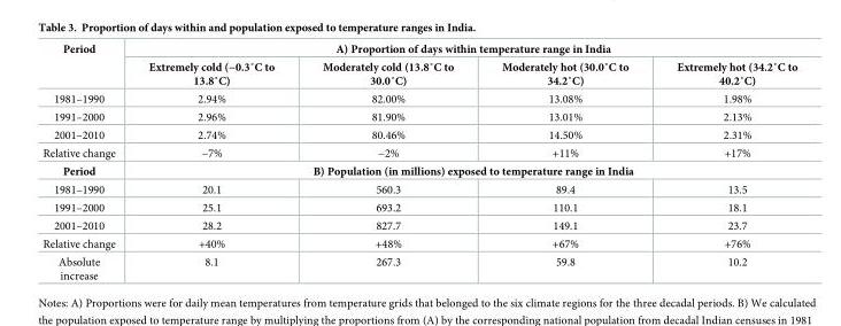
<table><tbody><tr><td rowspan="2">Period</td><td colspan="4">A) Proportion of days within temperature range in India</td></tr><tr><td>Extremely cold (−0.3˚C to 13.8˚C)</td><td>Moderately cold (13.8˚C to 30.0˚C)</td><td>Moderately hot (30.0˚C to 34.2˚C)</td><td>Extremely hot (34.2˚C to 40.2˚C)</td></tr><tr><td>1981–1990</td><td>2.94%</td><td>82.00%</td><td>13.08%</td><td>1.98%</td></tr><tr><td>1991–2000</td><td>2.96%</td><td>81.90%</td><td>13.01%</td><td>2.13%</td></tr><tr><td>2001–2010</td><td>2.74%</td><td>80.46%</td><td>14.50%</td><td>2.31%</td></tr><tr><td>Relative change</td><td>−7%</td><td>−2%</td><td>+11%</td><td>+17%</td></tr><tr><td>Period</td><td colspan="4">B) Population (in millions) exposed to temperature range in India</td></tr><tr><td>1981–1990</td><td>20.1</td><td>560.3</td><td>89.4</td><td>13.5</td></tr><tr><td>1991–2000</td><td>25.1</td><td>693.2</td><td>110.1</td><td>18.1</td></tr><tr><td>2001–2010</td><td>28.2</td><td>827.7</td><td>149.1</td><td>23.7</td></tr><tr><td>Relative change</td><td>+40%</td><td>+48%</td><td>+67%</td><td>+76%</td></tr><tr><td>Absolute increase</td><td>8.1</td><td>267.3</td><td>59.8</td><td>10.2</td></tr></tbody></table>